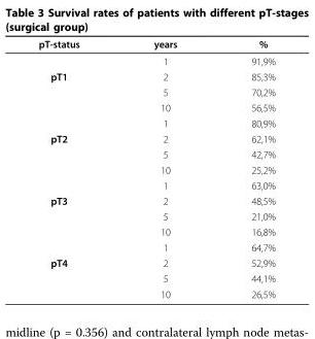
<table><thead><tr><td>pT-status</td><td>years</td><td>%</td></tr></thead><tbody><tr><td></td><td>1</td><td>91,9%</td></tr><tr><td rowspan="4">pT1</td><td>2</td><td>85,3%</td></tr><tr><td>5</td><td>70,2%</td></tr><tr><td>10</td><td>56,5%</td></tr><tr><td>1</td><td>80,9%</td></tr><tr><td rowspan="4">pT2</td><td>2</td><td>62,1%</td></tr><tr><td>5</td><td>42,7%</td></tr><tr><td>10</td><td>25,2%</td></tr><tr><td>1</td><td>63,0%</td></tr><tr><td rowspan="4">pT3</td><td>2</td><td>48,5%</td></tr><tr><td>5</td><td>21,0%</td></tr><tr><td>10</td><td>16,8%</td></tr><tr><td>1</td><td>64,7%</td></tr><tr><td rowspan="3">pT4</td><td>2</td><td>52,9%</td></tr><tr><td>5</td><td>44,1%</td></tr><tr><td>10</td><td>26,5%</td></tr></tbody></table>